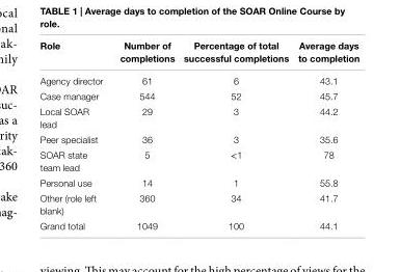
<table><thead><tr><td>Role</td><td>number of completions</td><td>Percentage of total successful completions</td><td>average days to completion</td></tr></thead><tbody><tr><td>Agency director</td><td>61</td><td>6</td><td>43.1</td></tr><tr><td>Case manager</td><td>544</td><td>52</td><td>45.7</td></tr><tr><td>Local SOAR lead</td><td>29</td><td>3</td><td>44.2</td></tr><tr><td>Peer specialist</td><td>36</td><td>3</td><td>35.6</td></tr><tr><td>SOAR state team lead</td><td>5</td><td>&lt;1</td><td>78</td></tr><tr><td>Personal use</td><td>14</td><td>1</td><td>55.8</td></tr><tr><td>Other (role left blank)</td><td>360</td><td>34</td><td>41.7</td></tr><tr><td>Grand total</td><td>1049</td><td>100</td><td>44.1</td></tr></tbody></table>